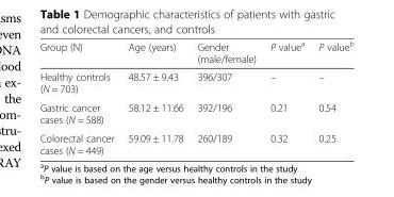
<table><thead><tr><td>Group (N)</td><td>Age (years)</td><td>Gender (male/female)</td><td>P value<sup>a</sup></td><td>P value<sup>b</sup></td></tr></thead><tbody><tr><td>Healthy controls (N = 703)</td><td>48.57 ± 9.43</td><td>396/307</td><td>–</td><td>–</td></tr><tr><td>Gastric cancer cases (N = 588)</td><td>58.12 ± 11.66</td><td>392/196</td><td>0.21</td><td>0.54</td></tr><tr><td>Colorectal cancer cases (N = 449)</td><td>59.09 ± 11.78</td><td>260/189</td><td>0.32</td><td>0.25</td></tr></tbody></table>